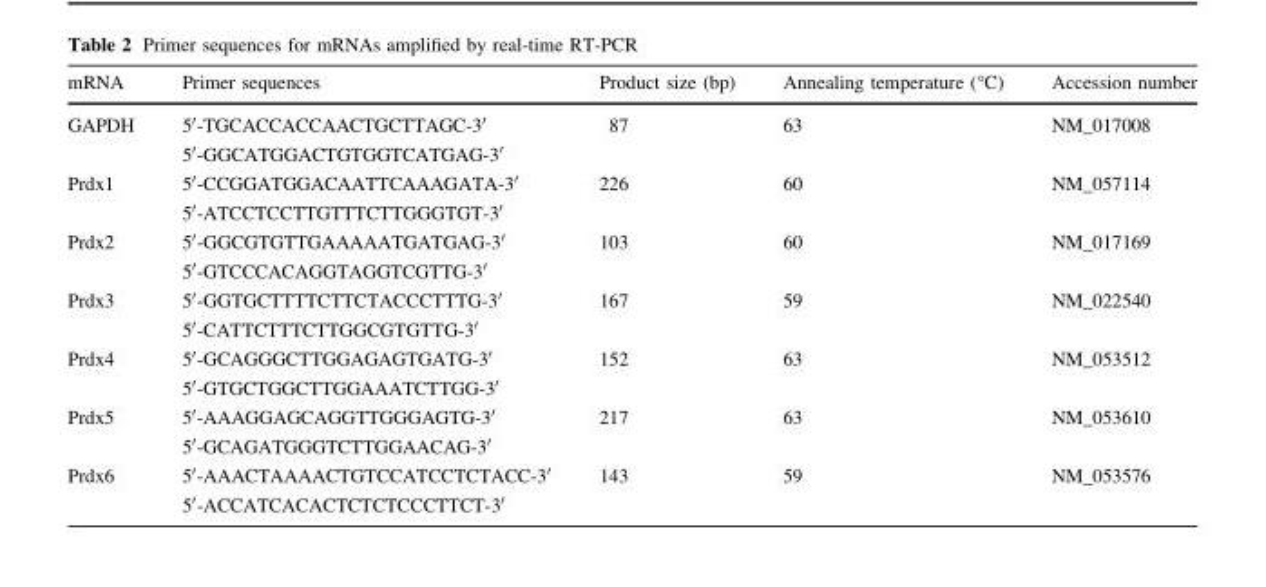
<table><thead><tr><td>mRNA</td><td>Primer sequences</td><td>Product size (bp)</td><td>Annealing temperature (°C)</td><td>Accession number</td></tr></thead><tbody><tr><td>GAPDH</td><td>5′-TGCACCACCAACTGCTTAGC-3′ 5′-GGCATGGACTGTGGTCATGAG-3′</td><td>87</td><td>63</td><td>NM_017008</td></tr><tr><td>Prdx1</td><td>5′-CCGGATGGACAATTCAAAGATA-3′ 5′-ATCCTCCTTGTTTCTTGGGTGT-3′</td><td>226</td><td>60</td><td>NM_057114</td></tr><tr><td>Prdx2</td><td>5′-GGCGTGTTGAAAAATGATGAG-3′ 5′-GTCCCACAGGTAGGTCGTTG-3′</td><td>103</td><td>60</td><td>NM_017169</td></tr><tr><td>Prdx3</td><td>5′-GGTGCTTTTCTTCTACCCTTTG-3′ 5′-CATTCTTTCTTGGCGTGTTG-3′</td><td>167</td><td>59</td><td>NM_022540</td></tr><tr><td>Prdx4</td><td>5′-GCAGGGCTTGGAGAGTGATG-3′ 5′-GTGCTGGCTTGGAAATCTTGG-3′</td><td>152</td><td>63</td><td>NM_053512</td></tr><tr><td>Prdx5</td><td>5′-AAAGGAGCAGGTTGGGAGTG-3′ 5′-GCAGATGGGTCTTGGAACAG-3′</td><td>217</td><td>63</td><td>NM_053610</td></tr><tr><td>Prdx6</td><td>5′-AAACTAAAACTGTCCATCCTCTACC-3′ 5′-ACCATCACACTCTCTCCCTTCT-3′</td><td>143</td><td>59</td><td>NM_053576</td></tr></tbody></table>